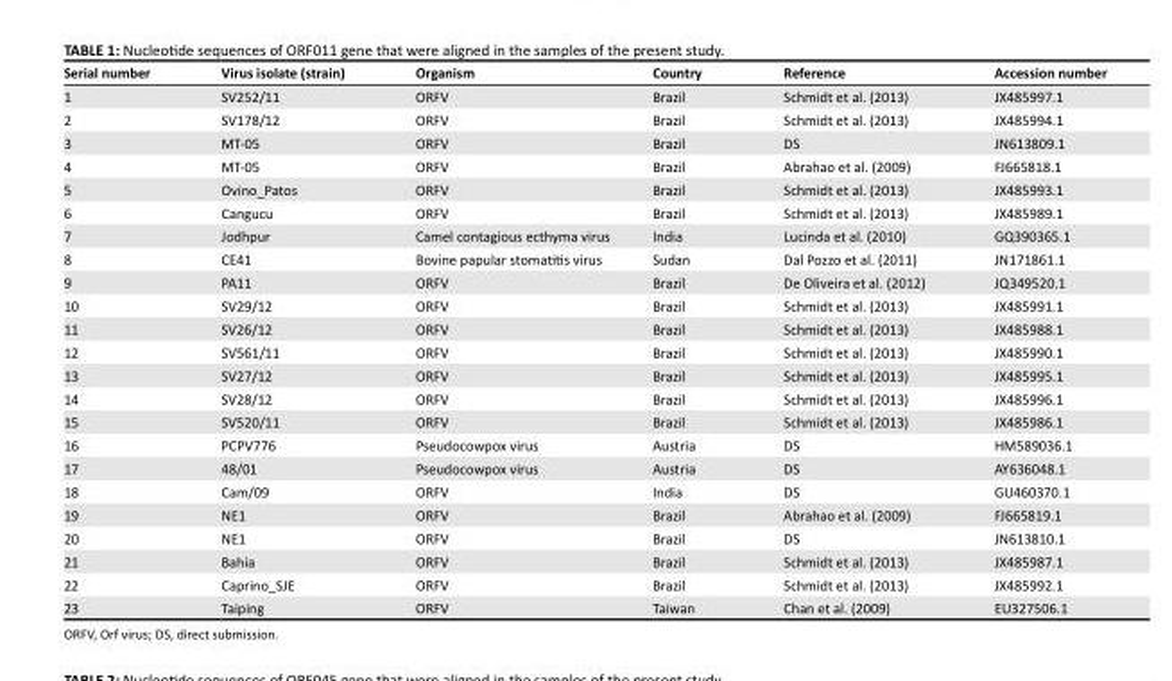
<table><thead><tr><td>Serial number</td><td>Virus isolate (strain)</td><td>Organism</td><td>Country</td><td>Reference</td><td>Accession number</td></tr></thead><tbody><tr><td>1</td><td>SV252/11</td><td>ORFV</td><td>Brazil</td><td>Schmidt et al. (2013)</td><td>JX485997.1</td></tr><tr><td>2</td><td>SV178/12</td><td>ORFV</td><td>Brazil</td><td>Schmidt et al. (2013)</td><td>JX485994.1</td></tr><tr><td>3</td><td>MT-05</td><td>ORFV</td><td>Brazil</td><td>DS</td><td>JN613809.1</td></tr><tr><td>4</td><td>MT-05</td><td>ORFV</td><td>Brazil</td><td>Abrahao et al. (2009)</td><td>FJ665818.1</td></tr><tr><td>5</td><td>Ovino_Patos</td><td>ORFV</td><td>Brazil</td><td>Schmidt et al. (2013)</td><td>JX485993.1</td></tr><tr><td>6</td><td>Cangucu</td><td>ORFV</td><td>Brazil</td><td>Schmidt et al. (2013)</td><td>JX485989.1</td></tr><tr><td>7</td><td>Jodhpur</td><td>Camel contagious ecthyma virus</td><td>India</td><td>Lucinda et al. (2010)</td><td>GQ390365.1</td></tr><tr><td>8</td><td>CE41</td><td>Bovine papular stomatitis virus</td><td>Sudan</td><td>Dal Pozzo et al. (2011)</td><td>JN171861.1</td></tr><tr><td>9</td><td>PA11</td><td>ORFV</td><td>Brazil</td><td>De Oliveira et al. (2012)</td><td>JQ349520.1</td></tr><tr><td>10</td><td>SV29/12</td><td>ORFV</td><td>Brazil</td><td>Schmidt et al. (2013)</td><td>JX485991.1</td></tr><tr><td>11</td><td>SV26/12</td><td>ORFV</td><td>Brazil</td><td>Schmidt et al. (2013)</td><td>JX485988.1</td></tr><tr><td>12</td><td>SV561/11</td><td>ORFV</td><td>Brazil</td><td>Schmidt et al. (2013)</td><td>JX485990.1</td></tr><tr><td>13</td><td>SV27/12</td><td>ORFV</td><td>Brazil</td><td>Schmidt et al. (2013)</td><td>JX485995.1</td></tr><tr><td>14</td><td>SV28/12</td><td>ORFV</td><td>Brazil</td><td>Schmidt et al. (2013)</td><td>JX485996.1</td></tr><tr><td>15</td><td>SV520/11</td><td>ORFV</td><td>Brazil</td><td>Schmidt et al. (2013)</td><td>JX485986.1</td></tr><tr><td>16</td><td>PCPV776</td><td>Pseudocowpox virus</td><td>Austria</td><td>DS</td><td>HM589036.1</td></tr><tr><td>17</td><td>48/01</td><td>Pseudocowpox virus</td><td>Austria</td><td>DS</td><td>AY636048.1</td></tr><tr><td>18</td><td>Cam/09</td><td>ORFV</td><td>India</td><td>DS</td><td>GU460370.1</td></tr><tr><td>19</td><td>NE1</td><td>ORFV</td><td>Brazil</td><td>Abrahao et al. (2009)</td><td>FJ665819.1</td></tr><tr><td>20</td><td>NE1</td><td>ORFV</td><td>Brazil</td><td>DS</td><td>JN613810.1</td></tr><tr><td>21</td><td>Bahia</td><td>ORFV</td><td>Brazil</td><td>Schmidt et al. (2013)</td><td>JX485987.1</td></tr><tr><td>22</td><td>Caprino_SJE</td><td>ORFV</td><td>Brazil</td><td>Schmidt et al. (2013)</td><td>JX485992.1</td></tr><tr><td>23</td><td>Taiping</td><td>ORFV</td><td>Taiwan</td><td>Chan et al. (2009)</td><td>EU327506.1</td></tr></tbody></table>